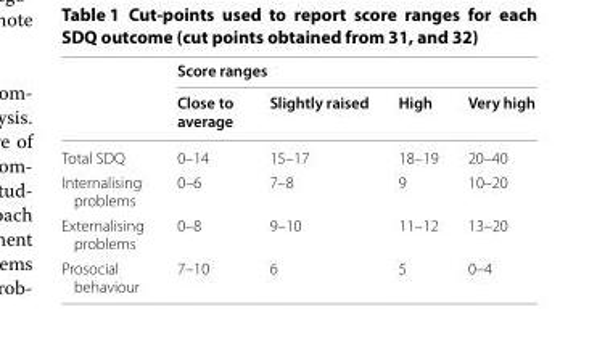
<table><thead><tr><td rowspan="2"></td><td colspan="4">Score ranges</td></tr><tr><td>Close to average</td><td>Slightly raised</td><td>High</td><td>Very high</td></tr></thead><tbody><tr><td>Total SDQ</td><td>0–14</td><td>15–17</td><td>18–19</td><td>20–40</td></tr><tr><td>Internalising problems</td><td>0–6</td><td>7–8</td><td>9</td><td>10–20</td></tr><tr><td>Externalising problems</td><td>0–8</td><td>9–10</td><td>11–12</td><td>13–20</td></tr><tr><td>Prosocial behaviour</td><td>7–10</td><td>6</td><td>5</td><td>0–4</td></tr></tbody></table>